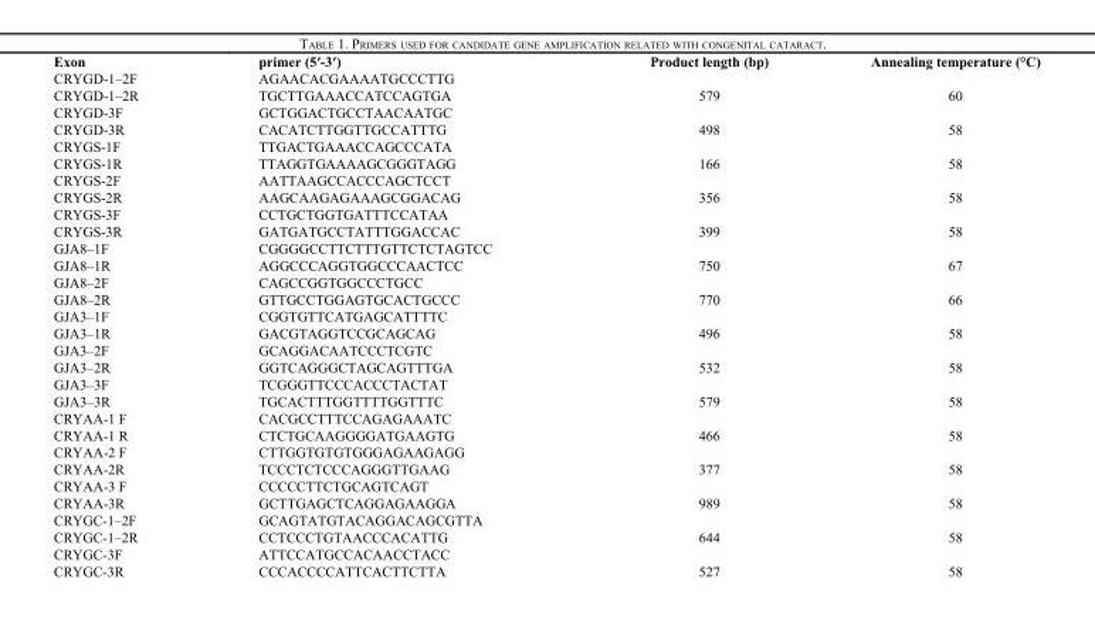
<table><thead><tr><td>Exon</td><td>primer (5′-3′)</td><td>Product length (bp)</td><td>Annealing temperature (°C)</td></tr></thead><tbody><tr><td>CRYGD-1–2F</td><td>AGAACACGAAAATGCCCTTG</td><td></td><td></td></tr><tr><td>CRYGD-1–2R</td><td>TGCTTGAAACCATCCAGTGA</td><td>579</td><td>60</td></tr><tr><td>CRYGD-3F</td><td>GCTGGACTGCCTAACAATGC</td><td></td><td></td></tr><tr><td>CRYGD-3R</td><td>CACATCTTGGTTGCCATTTG</td><td>498</td><td>58</td></tr><tr><td>CRYGS-1F</td><td>TTGACTGAAACCAGCCCATA</td><td></td><td></td></tr><tr><td>CRYGS-1R</td><td>TTAGGTGAAAAGCGGGTAGG</td><td>166</td><td>58</td></tr><tr><td>CRYGS-2F</td><td>AATTAAGCCACCCAGCTCCT</td><td></td><td></td></tr><tr><td>CRYGS-2R</td><td>AAGCAAGAGAAAGCGGACAG</td><td>356</td><td>58</td></tr><tr><td>CRYGS-3F</td><td>CCTGCTGGTGATTTCCATAA</td><td></td><td></td></tr><tr><td>CRYGS-3R</td><td>GATGATGCCTATTTGGACCAC</td><td>399</td><td>58</td></tr><tr><td>GJA8–1F</td><td>CGGGGCCTTCTTTGTTCTCTAGTCC</td><td></td><td></td></tr><tr><td>GJA8–1R</td><td>AGGCCCAGGTGGCCCAACTCC</td><td>750</td><td>67</td></tr><tr><td>GJA8–2F</td><td>CAGCCGGTGGCCCTGCC</td><td></td><td></td></tr><tr><td>GJA8–2R</td><td>GTTGCCTGGAGTGCACTGCCC</td><td>770</td><td>66</td></tr><tr><td>GJA3–1F</td><td>CGGTGTTCATGAGCATTTTC</td><td></td><td></td></tr><tr><td>GJA3–1R</td><td>GACGTAGGTCCGCAGCAG</td><td>496</td><td>58</td></tr><tr><td>GJA3–2F</td><td>GCAGGACAATCCCTCGTC</td><td></td><td></td></tr><tr><td>GJA3–2R</td><td>GGTCAGGGCTAGCAGTTTGA</td><td>532</td><td>58</td></tr><tr><td>GJA3–3F</td><td>TCGGGTTCCCACCCTACTAT</td><td></td><td></td></tr><tr><td>GJA3–3R</td><td>TGCACTTTGGTTTTGGTTTC</td><td>579</td><td>58</td></tr><tr><td>CRYAA-1 F</td><td>CACGCCTTTCCAGAGAAATC</td><td></td><td></td></tr><tr><td>CRYAA-1 R</td><td>CTCTGCAAGGGGATGAAGTG</td><td>466</td><td>58</td></tr><tr><td>CRYAA-2 F</td><td>CTTGGTGTGTGGGAGAAGAGG</td><td></td><td></td></tr><tr><td>CRYAA-2R</td><td>TCCCTCTCCCAGGGTTGAAG</td><td>377</td><td>58</td></tr><tr><td>CRYAA-3 F</td><td>CCCCCTTCTGCAGTCAGT</td><td></td><td></td></tr><tr><td>CRYAA-3R</td><td>GCTTGAGCTCAGGAGAAGGA</td><td>989</td><td>58</td></tr><tr><td>CRYGC-1–2F</td><td>GCAGTATGTACAGGACAGCGTTA</td><td></td><td></td></tr><tr><td>CRYGC-1–2R</td><td>CCTCCCTGTAACCCACATTG</td><td>644</td><td>58</td></tr><tr><td>CRYGC-3F</td><td>ATTCCATGCCACAACCTACC</td><td></td><td></td></tr><tr><td>CRYGC-3R</td><td>CCCACCCCATTCACTTCTTA</td><td>527</td><td>58</td></tr></tbody></table>